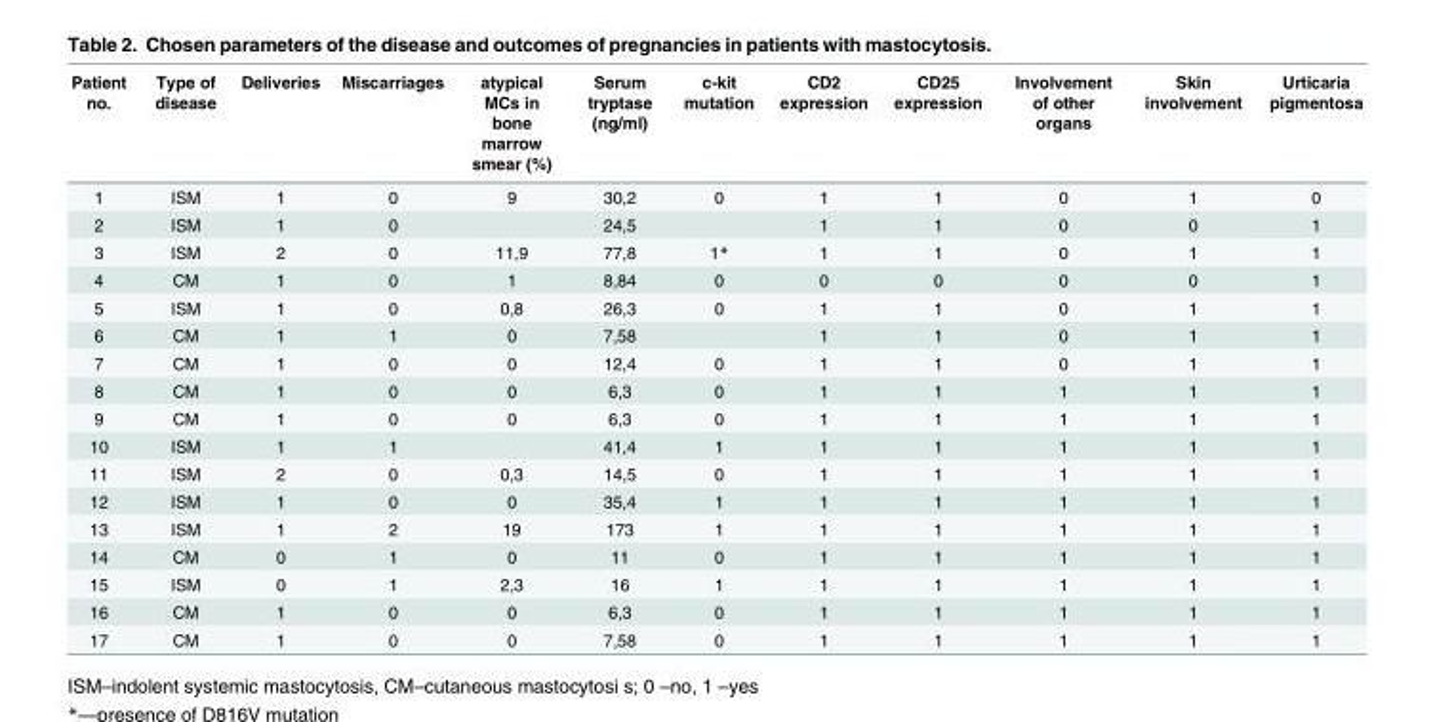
<table><thead><tr><td>Patient no.</td><td>Type of disease</td><td>Deliveries</td><td>Miscarriages</td><td>atypical MCs in bone marrow smear (%)</td><td>Serum tryptase (ng/ml)</td><td>c-kit mutation</td><td>CD2 expression</td><td>CD25 expression</td><td>Involvement of other organs</td><td>Skin involvement</td><td>Urticaria pigmentosa</td></tr></thead><tbody><tr><td>1</td><td>ISM</td><td>1</td><td>0</td><td>9</td><td>30,2</td><td>0</td><td>1</td><td>1</td><td>0</td><td>1</td><td>0</td></tr><tr><td>2</td><td>ISM</td><td>1</td><td>0</td><td></td><td>24,5</td><td></td><td>1</td><td>1</td><td>0</td><td>0</td><td>1</td></tr><tr><td>3</td><td>ISM</td><td>2</td><td>0</td><td>11,9</td><td>77,8</td><td>1*</td><td>1</td><td>1</td><td>0</td><td>1</td><td>1</td></tr><tr><td>4</td><td>CM</td><td>1</td><td>0</td><td>1</td><td>8,84</td><td>0</td><td>0</td><td>0</td><td>0</td><td>0</td><td>1</td></tr><tr><td>5</td><td>ISM</td><td>1</td><td>0</td><td>0,8</td><td>26,3</td><td>0</td><td>1</td><td>1</td><td>0</td><td>1</td><td>1</td></tr><tr><td>6</td><td>CM</td><td>1</td><td>1</td><td>0</td><td>7,58</td><td></td><td>1</td><td>1</td><td>0</td><td>1</td><td>1</td></tr><tr><td>7</td><td>CM</td><td>1</td><td>0</td><td>0</td><td>12,4</td><td>0</td><td>1</td><td>1</td><td>0</td><td>1</td><td>1</td></tr><tr><td>8</td><td>CM</td><td>1</td><td>0</td><td>0</td><td>6,3</td><td>0</td><td>1</td><td>1</td><td>1</td><td>1</td><td>1</td></tr><tr><td>9</td><td>CM</td><td>1</td><td>0</td><td>0</td><td>6,3</td><td>0</td><td>1</td><td>1</td><td>1</td><td>1</td><td>1</td></tr><tr><td>10</td><td>ISM</td><td>1</td><td>1</td><td></td><td>41,4</td><td>1</td><td>1</td><td>1</td><td>1</td><td>1</td><td>1</td></tr><tr><td>11</td><td>ISM</td><td>2</td><td>0</td><td>0,3</td><td>14,5</td><td>0</td><td>1</td><td>1</td><td>1</td><td>1</td><td>1</td></tr><tr><td>12</td><td>ISM</td><td>1</td><td>0</td><td>0</td><td>35,4</td><td>1</td><td>1</td><td>1</td><td>1</td><td>1</td><td>1</td></tr><tr><td>13</td><td>ISM</td><td>1</td><td>2</td><td>19</td><td>173</td><td>1</td><td>1</td><td>1</td><td>1</td><td>1</td><td>1</td></tr><tr><td>14</td><td>CM</td><td>0</td><td>1</td><td>0</td><td>11</td><td>0</td><td>1</td><td>1</td><td>1</td><td>1</td><td>1</td></tr><tr><td>15</td><td>ISM</td><td>0</td><td>1</td><td>2,3</td><td>16</td><td>1</td><td>1</td><td>1</td><td>1</td><td>1</td><td>1</td></tr><tr><td>16</td><td>CM</td><td>1</td><td>0</td><td>0</td><td>6,3</td><td>0</td><td>1</td><td>1</td><td>1</td><td>1</td><td>1</td></tr><tr><td>17</td><td>CM</td><td>1</td><td>0</td><td>0</td><td>7,58</td><td>0</td><td>1</td><td>1</td><td>1</td><td>1</td><td>1</td></tr></tbody></table>